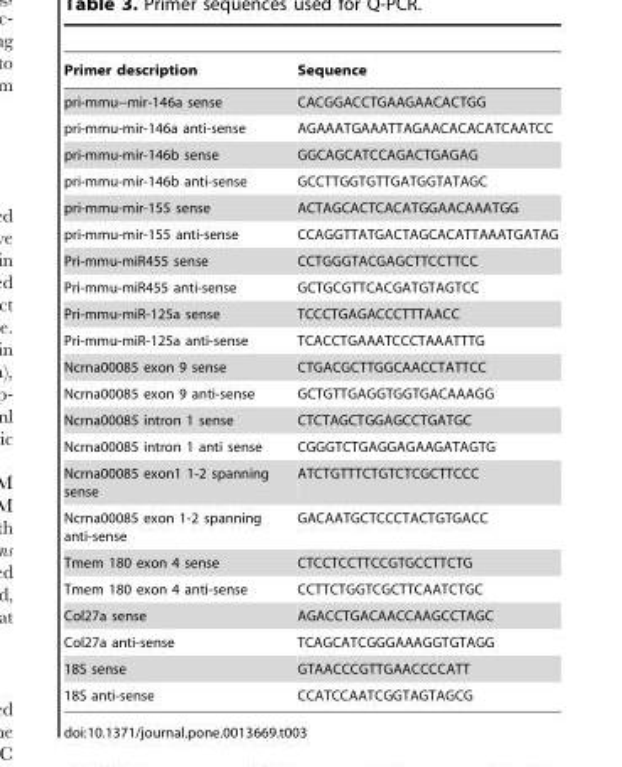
<table><thead><tr><td>Primer description</td><td>Sequence</td></tr></thead><tbody><tr><td>pri-mmu--mir-146a sense</td><td>CACGGACCTGAAGAACACTGG</td></tr><tr><td>pri-mmu-mir-146a anti-sense</td><td>AGAAATGAAATTAGAACACACATCAATCC</td></tr><tr><td>pri-mmu-mir-146b sense</td><td>GGCAGCATCCAGACTGAGAG</td></tr><tr><td>pri-mmu-mir-146b anti-sense</td><td>GCCTTGGTGTTGATGGTATAGC</td></tr><tr><td>pri-mmu-mir-155 sense</td><td>ACTAGCACTCACATGGAACAAATGG</td></tr><tr><td>pri-mmu-mir-155 anti-sense</td><td>CCAGGTTATGACTAGCACATTAAATGATAG</td></tr><tr><td>Pri-mmu-miR455 sense</td><td>CCTGGGTACGAGCTTCCTTCC</td></tr><tr><td>Pri-mmu-miR455 anti-sense</td><td>GCTGCGTTCACGATGTAGTCC</td></tr><tr><td>Pri-mmu-miR-125a sense</td><td>TCCCTGAGACCCTTTAACC</td></tr><tr><td>Pri-mmu-miR-125a anti-sense</td><td>TCACCTGAAATCCCTAAATTTG</td></tr><tr><td>Ncrna00085 exon 9 sense</td><td>CTGACGCTTGGCAACCTATTCC</td></tr><tr><td>Ncrna00085 exon 9 anti-sense</td><td>GCTGTTGAGGTGGTGACAAAGG</td></tr><tr><td>Ncrna00085 intron 1 sense</td><td>CTCTAGCTGGAGCCTGATGC</td></tr><tr><td>Ncrna00085 intron 1 anti sense</td><td>CGGGTCTGAGGAGAAGATAGTG</td></tr><tr><td>Ncrna00085 exon1 1-2 spanning sense</td><td>ATCTGTTTCTGTCTCGCTTCCC</td></tr><tr><td>Ncrna00085 exon 1-2 spanning anti-sense</td><td>GACAATGCTCCCTACTGTGACC</td></tr><tr><td>Tmem 180 exon 4 sense</td><td>CTCCTCCTTCCGTGCCTTCTG</td></tr><tr><td>Tmem 180 exon 4 anti-sense</td><td>CCTTCTGGTCGCTTCAATCTGC</td></tr><tr><td>Col27a sense</td><td>AGACCTGACAACCAAGCCTAGC</td></tr><tr><td>Col27a anti-sense</td><td>TCAGCATCGGGAAAGGTGTAGG</td></tr><tr><td>18S sense</td><td>GTAACCCGTTGAACCCCATT</td></tr><tr><td>18S anti-sense</td><td>CCATCCAATCGGTAGTAGCG</td></tr></tbody></table>